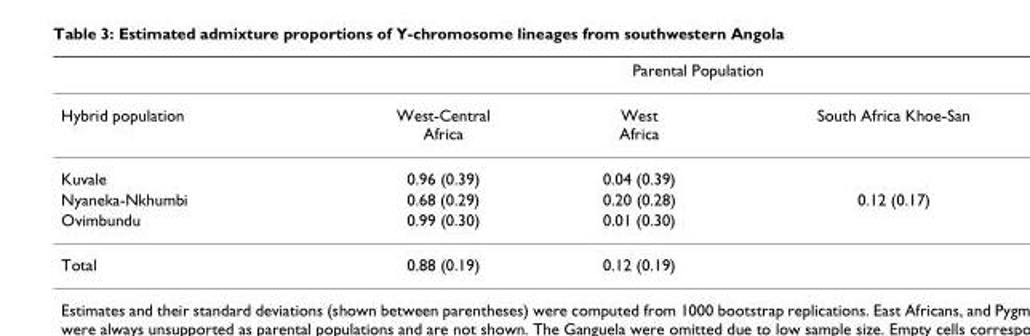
<table><thead><tr><td rowspan="2">Hybrid population</td><td colspan="3">Parental Population</td></tr><tr><td>West-Central Africa</td><td>West Africa</td><td>South Africa Khoe-San</td></tr></thead><tbody><tr><td>Kuvale</td><td>0.96 (0.39)</td><td>0.04 (0.39)</td><td></td></tr><tr><td>Nyaneka-Nkhumbi</td><td>0.68 (0.29)</td><td>0.20 (0.28)</td><td>0.12 (0.17)</td></tr><tr><td>Ovimbundu</td><td>0.99 (0.30)</td><td>0.01 (0.30)</td><td></td></tr><tr><td>Total</td><td>0.88 (0.19)</td><td>0.12 (0.19)</td><td></td></tr></tbody></table>